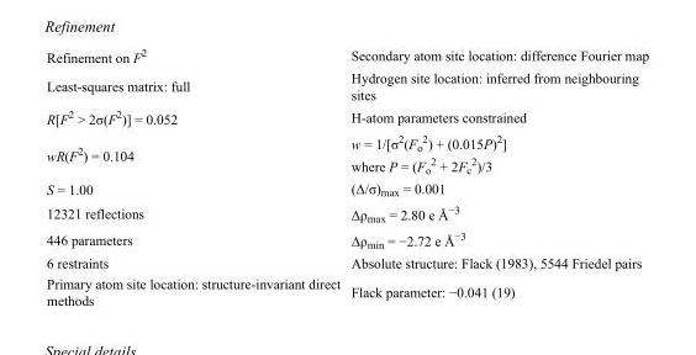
<table><tbody><tr><td>Refinement on F<sup>2</sup></td><td>Secondary atom site location: difference Fourier map</td></tr><tr><td>Least-squares matrix: full</td><td>Hydrogen site location: inferred from neighbouring sites</td></tr><tr><td>R[F<sup>2</sup> &gt; 2σ(F<sup>2</sup>)] = 0.052</td><td>H-atom parameters constrained</td></tr><tr><td>wR(F<sup>2</sup>) = 0.104</td><td>w = 1/[σ<sup>2</sup>(F<sub>o</sub> <sup>2</sup>) + (0.015P)<sup>2</sup>] where P = (F<sub>o</sub> <sup>2</sup> + 2F<sub>c</sub> <sup>2</sup>)/3</td></tr><tr><td>S = 1.00</td><td>(Δ/σ)<sub>max</sub> = 0.001</td></tr><tr><td>12321 reflections</td><td>Δρ<sub>max</sub> = 2.80 e Å<sup>−3</sup></td></tr><tr><td>446 parameters</td><td>Δρ<sub>min</sub> = −2.72 e Å<sup>−3</sup></td></tr><tr><td>6 restraints</td><td>Absolute structure: Flack (1983), 5544 Friedel pairs</td></tr><tr><td>Primary atom site location: structure-invariant direct methods</td><td>Flack parameter: −0.041 (19)</td></tr></tbody></table>